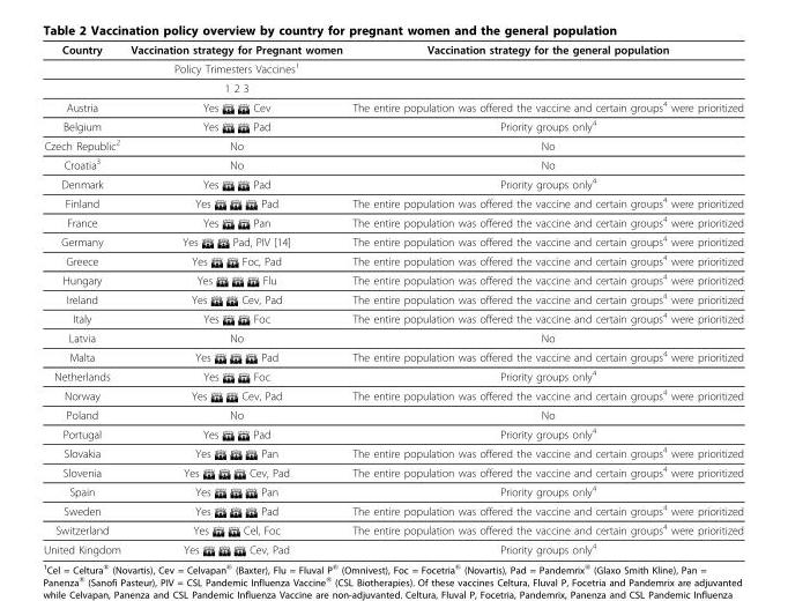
<table><thead><tr><td>Country</td><td>Vaccination strategy for Pregnant women</td><td>Vaccination strategy for the general population</td></tr></thead><tbody><tr><td></td><td>Policy Trimesters Vaccines<sup>1</sup></td><td></td></tr><tr><td></td><td>1 2 3</td><td></td></tr><tr><td>Austria</td><td>Yes ⊠ ⊠ Cev</td><td>The entire population was offered the vaccine and certain groups<sup>4</sup> were prioritized</td></tr><tr><td>Belgium</td><td>Yes ⊠ ⊠ Pad</td><td>Priority groups only<sup>4</sup></td></tr><tr><td>Czech Republic<sup>2</sup></td><td>No</td><td>No</td></tr><tr><td>Croatia<sup>3</sup></td><td>No</td><td>No</td></tr><tr><td>Denmark</td><td>Yes ⊠ ⊠ Pad</td><td>Priority groups only<sup>4</sup></td></tr><tr><td>Finland</td><td>Yes ⊠ ⊠ ⊠ Pad</td><td>The entire population was offered the vaccine and certain groups<sup>4</sup> were prioritized</td></tr><tr><td>France</td><td>Yes ⊠ ⊠ Pan</td><td>The entire population was offered the vaccine and certain groups<sup>4</sup> were prioritized</td></tr><tr><td>Germany</td><td>Yes ⊠ ⊠ Pad, PIV [14]</td><td>The entire population was offered the vaccine and certain groups<sup>4</sup> were prioritized</td></tr><tr><td>Greece</td><td>Yes ⊠ ⊠ Foc, Pad</td><td>The entire population was offered the vaccine and certain groups<sup>4</sup> were prioritized</td></tr><tr><td>Hungary</td><td>Yes ⊠ ⊠ ⊠ Flu</td><td>The entire population was offered the vaccine and certain groups<sup>4</sup> were prioritized</td></tr><tr><td>Ireland</td><td>Yes ⊠ ⊠ Cev, Pad</td><td>The entire population was offered the vaccine and certain groups<sup>4</sup> were prioritized</td></tr><tr><td>Italy</td><td>Yes ⊠ ⊠ Foc</td><td>The entire population was offered the vaccine and certain groups<sup>4</sup> were prioritized</td></tr><tr><td>Latvia</td><td>No</td><td>No</td></tr><tr><td>Malta</td><td>Yes ⊠ ⊠ ⊠ Pad</td><td>The entire population was offered the vaccine and certain groups<sup>4</sup> were prioritized</td></tr><tr><td>Netherlands</td><td>Yes ⊠ ⊠ Foc</td><td>Priority groups only<sup>4</sup></td></tr><tr><td>Norway</td><td>Yes ⊠ ⊠ Cev, Pad</td><td>The entire population was offered the vaccine and certain groups<sup>4</sup> were prioritized</td></tr><tr><td>Poland</td><td>No</td><td>No</td></tr><tr><td>Portugal</td><td>Yes ⊠ ⊠ Pad</td><td>Priority groups only<sup>4</sup></td></tr><tr><td>Slovakia</td><td>Yes ⊠ ⊠ ⊠ Pan</td><td>The entire population was offered the vaccine and certain groups<sup>4</sup> were prioritized</td></tr><tr><td>Slovenia</td><td>Yes ⊠ ⊠ ⊠ Cev, Pad</td><td>The entire population was offered the vaccine and certain groups<sup>4</sup> were prioritized</td></tr><tr><td>Spain</td><td>Yes ⊠ ⊠ ⊠ Pan</td><td>Priority groups only<sup>4</sup></td></tr><tr><td>Sweden</td><td>Yes ⊠ ⊠ ⊠ Pad</td><td>The entire population was offered the vaccine and certain groups<sup>4</sup> were prioritized</td></tr><tr><td>Switzerland</td><td>Yes ⊠ ⊠ Cel, Foc</td><td>The entire population was offered the vaccine and certain groups<sup>4</sup> were prioritized</td></tr><tr><td>United Kingdom</td><td>Yes ⊠ ⊠ ⊠ Cev, Pad</td><td>Priority groups only<sup>4</sup></td></tr></tbody></table>